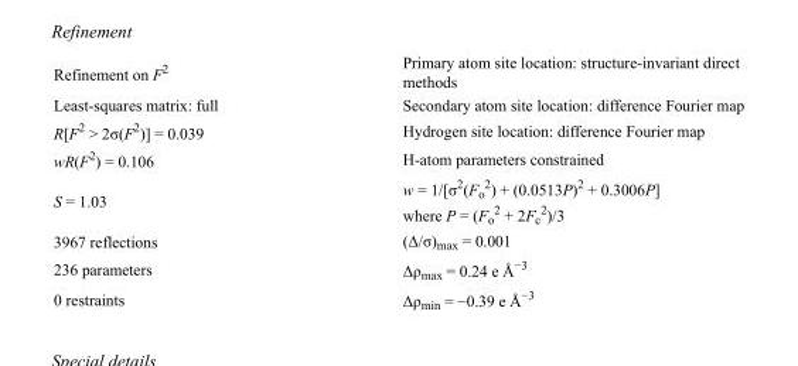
<table><tbody><tr><td>Refinement on F<sup>2</sup></td><td>Primary atom site location: structure-invariant direct methods</td></tr><tr><td>Least-squares matrix: full</td><td>Secondary atom site location: difference Fourier map</td></tr><tr><td>R[F<sup>2</sup> &gt; 2σ(F<sup>2</sup>)] = 0.039</td><td>Hydrogen site location: difference Fourier map</td></tr><tr><td>wR(F<sup>2</sup>) = 0.106</td><td>H-atom parameters constrained</td></tr><tr><td>S = 1.03</td><td>w = 1/[σ<sup>2</sup>(F<sub>o</sub> <sup>2</sup>) + (0.0513P)<sup>2</sup> + 0.3006P] where P = (F<sub>o</sub> <sup>2</sup> + 2F<sub>c</sub> <sup>2</sup>)/3</td></tr><tr><td>3967 reflections</td><td>(Δ/σ)<sub>max</sub> = 0.001</td></tr><tr><td>236 parameters</td><td>Δρ<sub>max</sub> = 0.24 e Å<sup>−3</sup></td></tr><tr><td>0 restraints</td><td>Δρ<sub>min</sub> = −0.39 e Å<sup>−3</sup></td></tr></tbody></table>